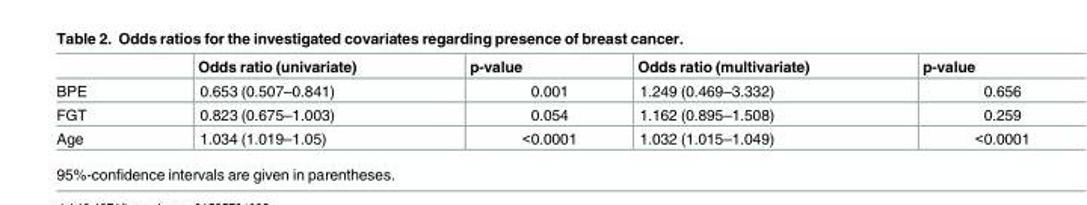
<table><thead><tr><td></td><td>Odds ratio (univariate)</td><td>p-value</td><td>Odds ratio (multivariate)</td><td>p-value</td></tr></thead><tbody><tr><td>BPE</td><td>0.653 (0.507–0.841)</td><td>0.001</td><td>1.249 (0.469–3.332)</td><td>0.656</td></tr><tr><td>FGT</td><td>0.823 (0.675–1.003)</td><td>0.054</td><td>1.162 (0.895–1.508)</td><td>0.259</td></tr><tr><td>Age</td><td>1.034 (1.019–1.05)</td><td>&lt;0.0001</td><td>1.032 (1.015–1.049)</td><td>&lt;0.0001</td></tr></tbody></table>